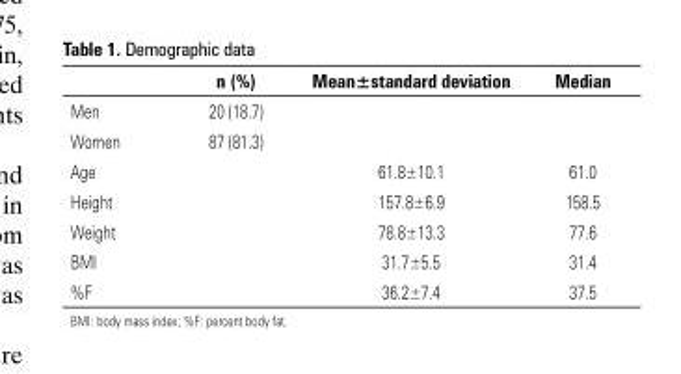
<table><thead><tr><td></td><td>n (%)</td><td>Mean±standard deviation</td><td>Median</td></tr></thead><tbody><tr><td>Men</td><td>20 (18.7)</td><td></td><td></td></tr><tr><td>Women</td><td>87 (81.3)</td><td></td><td></td></tr><tr><td>Age</td><td></td><td>61.8±10.1</td><td>61.0</td></tr><tr><td>Height</td><td></td><td>157.8±6.9</td><td>158.5</td></tr><tr><td>Weight</td><td></td><td>78.8±13.3</td><td>77.6</td></tr><tr><td>BMI</td><td></td><td>31.7±5.5</td><td>31.4</td></tr><tr><td>%F</td><td></td><td>36.2±7.4</td><td>37.5</td></tr></tbody></table>